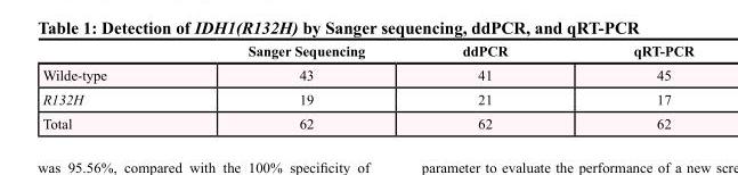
<table><thead><tr><td></td><td>Sanger Sequencing</td><td>ddPCR</td><td>qRT-PCR</td></tr></thead><tbody><tr><td>Wilde-type</td><td>43</td><td>41</td><td>45</td></tr><tr><td>R132H</td><td>19</td><td>21</td><td>17</td></tr><tr><td>Total</td><td>62</td><td>62</td><td>62</td></tr></tbody></table>